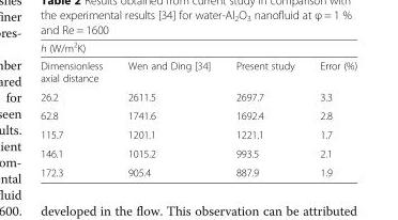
<table><thead><tr><td colspan="4">h (W/m<sup>2</sup>K)</td></tr><tr><td>Dimensionless axial distance</td><td>Wen and Ding [34]</td><td>Present study</td><td>Error (%)</td></tr></thead><tbody><tr><td>26.2</td><td>2611.5</td><td>2697.7</td><td>3.3</td></tr><tr><td>62.8</td><td>1741.6</td><td>1692.4</td><td>2.8</td></tr><tr><td>115.7</td><td>1201.1</td><td>1221.1</td><td>1.7</td></tr><tr><td>146.1</td><td>1015.2</td><td>993.5</td><td>2.1</td></tr><tr><td>172.3</td><td>905.4</td><td>887.9</td><td>1.9</td></tr></tbody></table>